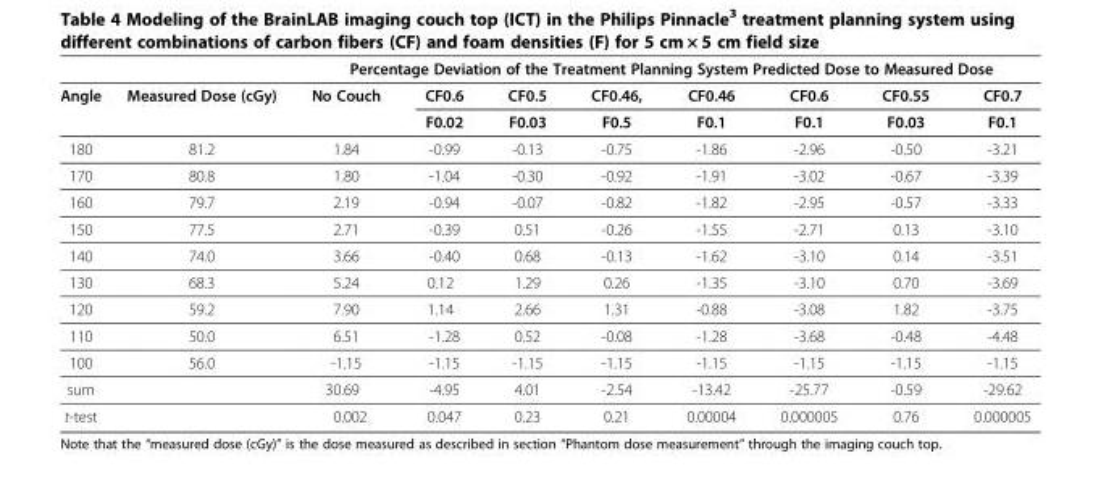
<table><thead><tr><td rowspan="2">Angle</td><td rowspan="2">Measured Dose (cGy)</td><td colspan="8">Percentage Deviation of the Treatment Planning System Predicted Dose to Measured Dose</td></tr><tr><td>No Couch</td><td>CF0.6</td><td>CF0.5</td><td>CF0.46,</td><td>CF0.46</td><td>CF0.6</td><td>CF0.55</td><td>CF0.7</td></tr></thead><tbody><tr><td></td><td></td><td></td><td>F0.02</td><td>F0.03</td><td>F0.5</td><td>F0.1</td><td>F0.1</td><td>F0.03</td><td>F0.1</td></tr><tr><td>180</td><td>81.2</td><td>1.84</td><td>-0.99</td><td>-0.13</td><td>-0.75</td><td>-1.86</td><td>-2.96</td><td>-0.50</td><td>-3.21</td></tr><tr><td>170</td><td>80.8</td><td>1.80</td><td>-1.04</td><td>-0.30</td><td>-0.92</td><td>-1.91</td><td>-3.02</td><td>-0.67</td><td>-3.39</td></tr><tr><td>160</td><td>79.7</td><td>2.19</td><td>-0.94</td><td>-0.07</td><td>-0.82</td><td>-1.82</td><td>-2.95</td><td>-0.57</td><td>-3.33</td></tr><tr><td>150</td><td>77.5</td><td>2.71</td><td>-0.39</td><td>0.51</td><td>-0.26</td><td>-1.55</td><td>-2.71</td><td>0.13</td><td>-3.10</td></tr><tr><td>140</td><td>74.0</td><td>3.66</td><td>-0.40</td><td>0.68</td><td>-0.13</td><td>-1.62</td><td>-3.10</td><td>0.14</td><td>-3.51</td></tr><tr><td>130</td><td>68.3</td><td>5.24</td><td>0.12</td><td>1.29</td><td>0.26</td><td>-1.35</td><td>-3.10</td><td>0.70</td><td>-3.69</td></tr><tr><td>120</td><td>59.2</td><td>7.90</td><td>1.14</td><td>2.66</td><td>1.31</td><td>-0.88</td><td>-3.08</td><td>1.82</td><td>-3.75</td></tr><tr><td>110</td><td>50.0</td><td>6.51</td><td>-1.28</td><td>0.52</td><td>-0.08</td><td>-1.28</td><td>-3.68</td><td>-0.48</td><td>-4.48</td></tr><tr><td>100</td><td>56.0</td><td>-1.15</td><td>-1.15</td><td>-1.15</td><td>-1.15</td><td>-1.15</td><td>-1.15</td><td>-1.15</td><td>-1.15</td></tr><tr><td>sum</td><td></td><td>30.69</td><td>-4.95</td><td>4.01</td><td>-2.54</td><td>-13.42</td><td>-25.77</td><td>-0.59</td><td>-29.62</td></tr><tr><td>t-test</td><td></td><td>0.002</td><td>0.047</td><td>0.23</td><td>0.21</td><td>0.00004</td><td>0.000005</td><td>0.76</td><td>0.000005</td></tr></tbody></table>